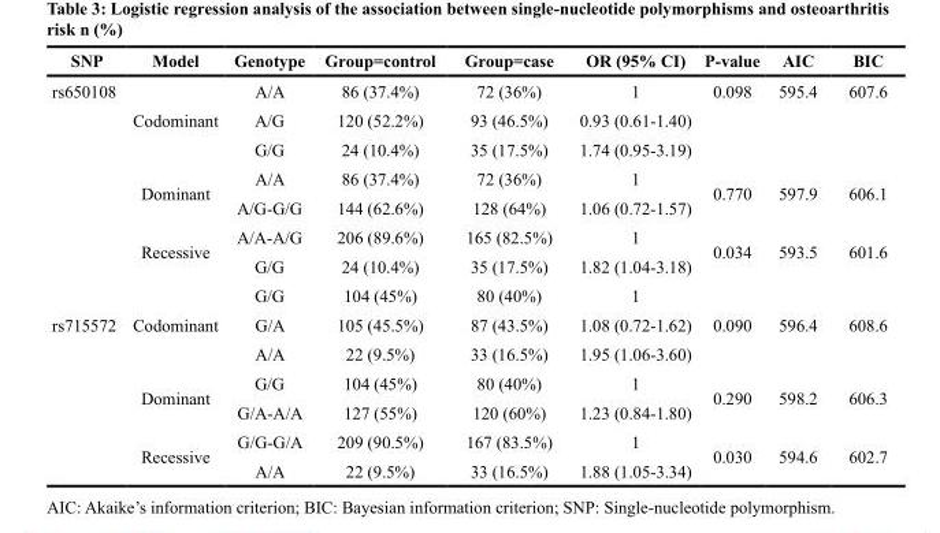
<table><thead><tr><td>SNP</td><td>Model</td><td>Genotype</td><td>Group=control</td><td>Group=case</td><td>OR (95% CI)</td><td>P-value</td><td>AIC</td><td>BIC</td></tr></thead><tbody><tr><td rowspan="7">rs650108</td><td rowspan="3">Codominant</td><td>A/A</td><td>86 (37.4%)</td><td>72 (36%)</td><td>1</td><td>0.098</td><td>595.4</td><td>607.6</td></tr><tr><td>A/G</td><td>120 (52.2%)</td><td>93 (46.5%)</td><td>0.93 (0.61-1.40)</td><td></td><td></td><td></td></tr><tr><td>G/G</td><td>24 (10.4%)</td><td>35 (17.5%)</td><td>1.74 (0.95-3.19)</td><td></td><td></td><td></td></tr><tr><td rowspan="2">Dominant</td><td>A/A</td><td>86 (37.4%)</td><td>72 (36%)</td><td>1</td><td rowspan="2">0.770</td><td rowspan="2">597.9</td><td rowspan="2">606.1</td></tr><tr><td>A/G-G/G</td><td>144 (62.6%)</td><td>128 (64%)</td><td>1.06 (0.72-1.57)</td></tr><tr><td rowspan="2">Recessive</td><td>A/A-A/G</td><td>206 (89.6%)</td><td>165 (82.5%)</td><td>1</td><td rowspan="2">0.034</td><td rowspan="2">593.5</td><td rowspan="2">601.6</td></tr><tr><td>G/G</td><td>24 (10.4%)</td><td>35 (17.5%)</td><td>1.82 (1.04-3.18)</td></tr><tr><td rowspan="7">rs715572</td><td rowspan="3">Codominant</td><td>G/G</td><td>104 (45%)</td><td>80 (40%)</td><td>1</td><td rowspan="3">0.090</td><td rowspan="3">596.4</td><td rowspan="3">608.6</td></tr><tr><td>G/A</td><td>105 (45.5%)</td><td>87 (43.5%)</td><td>1.08 (0.72-1.62)</td></tr><tr><td>A/A</td><td>22 (9.5%)</td><td>33 (16.5%)</td><td>1.95 (1.06-3.60)</td></tr><tr><td rowspan="2">Dominant</td><td>G/G</td><td>104 (45%)</td><td>80 (40%)</td><td>1</td><td rowspan="2">0.290</td><td rowspan="2">598.2</td><td rowspan="2">606.3</td></tr><tr><td>G/A-A/A</td><td>127 (55%)</td><td>120 (60%)</td><td>1.23 (0.84-1.80)</td></tr><tr><td rowspan="2">Recessive</td><td>G/G-G/A</td><td>209 (90.5%)</td><td>167 (83.5%)</td><td>1</td><td rowspan="2">0.030</td><td rowspan="2">594.6</td><td rowspan="2">602.7</td></tr><tr><td>A/A</td><td>22 (9.5%)</td><td>33 (16.5%)</td><td>1.88 (1.05-3.34)</td></tr></tbody></table>